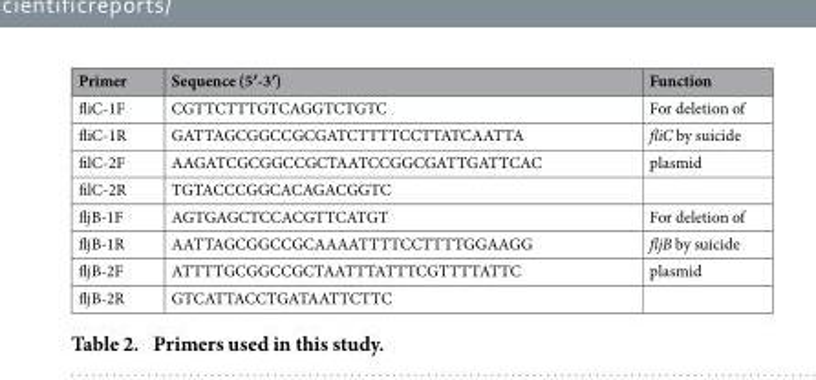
<table><thead><tr><td>Primer</td><td>Sequence (5′-3′)</td><td>Function</td></tr></thead><tbody><tr><td>fliC-1F</td><td>CGTTCTTTGTCAGGTCTGTC</td><td>For deletion of</td></tr><tr><td>fliC-1R</td><td>GATTAGCGGCCGCGATCTTTTCCTTATCAATTA</td><td>fliC by suicide</td></tr><tr><td>filC-2F</td><td>AAGATCGCGGCCGCTAATCCGGCGATTGATTCAC</td><td>plasmid</td></tr><tr><td>filC-2R</td><td>TGTACCCGGCACAGACGGTC</td><td></td></tr><tr><td>fljB-1F</td><td>AGTGAGCTCCACGTTCATGT</td><td>For deletion of</td></tr><tr><td>fljB-1R</td><td>AATTAGCGGCCGCAAAATTTTCCTTTTGGAAGG</td><td>fljB by suicide</td></tr><tr><td>fljB-2F</td><td>ATTTTGCGGCCGCTAATTTATTTCGTTTTATTC</td><td>plasmid</td></tr><tr><td>fljB-2R</td><td>GTCATTACCTGATAATTCTTC</td><td></td></tr></tbody></table>